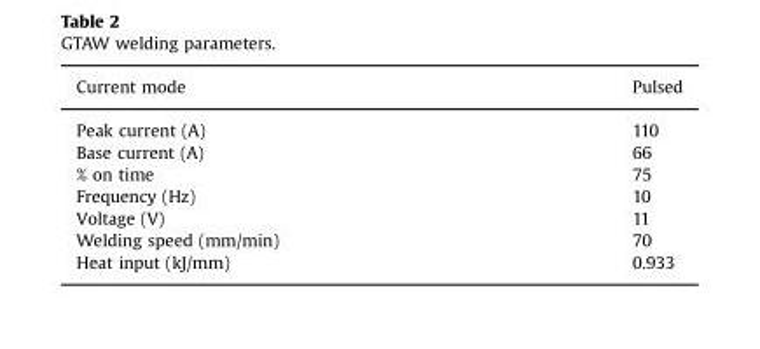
<table><thead><tr><td>Current mode</td><td>Pulsed</td></tr></thead><tbody><tr><td>Peak current (A)</td><td>110</td></tr><tr><td>Base current (A)</td><td>66</td></tr><tr><td>% on time</td><td>75</td></tr><tr><td>Frequency (Hz)</td><td>10</td></tr><tr><td>Voltage (V)</td><td>11</td></tr><tr><td>Welding speed (mm/min)</td><td>70</td></tr><tr><td>Heat input (kJ/mm)</td><td>0.933</td></tr></tbody></table>